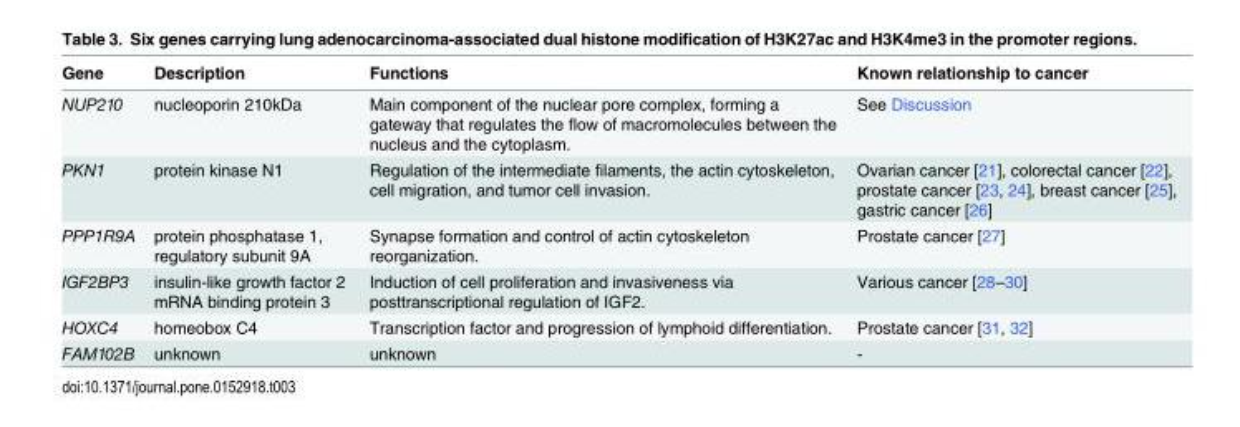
<table><thead><tr><td>Gene</td><td>Description</td><td>Functions</td><td>Known relationship to cancer</td></tr></thead><tbody><tr><td>NUP210</td><td>nucleoporin 210kDa</td><td>Main component of the nuclear pore complex, forming a gateway that regulates the flow of macromolecules between the nucleus and the cytoplasm.</td><td>See Discussion</td></tr><tr><td>PKN1</td><td>protein kinase N1</td><td>Regulation of the intermediate filaments, the actin cytoskeleton, cell migration, and tumor cell invasion.</td><td>Ovarian cancer [21], colorectal cancer [22], prostate cancer [23, 24], breast cancer [25], gastric cancer [26]</td></tr><tr><td>PPP1R9A</td><td>protein phosphatase 1, regulatory subunit 9A</td><td>Synapse formation and control of actin cytoskeleton reorganization.</td><td>Prostate cancer [27]</td></tr><tr><td>IGF2BP3</td><td>insulin-like growth factor 2 mRNA binding protein 3</td><td>Induction of cell proliferation and invasiveness via posttranscriptional regulation of IGF2.</td><td>Various cancer [28–30]</td></tr><tr><td>HOXC4</td><td>homeobox C4</td><td>Transcription factor and progression of lymphoid differentiation.</td><td>Prostate cancer [31, 32]</td></tr><tr><td>FAM102B</td><td>unknown</td><td>unknown</td><td>-</td></tr></tbody></table>